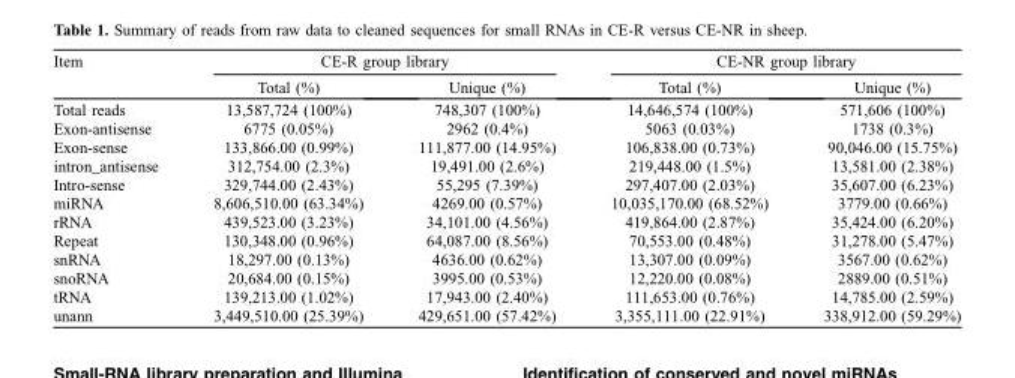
<table><thead><tr><td rowspan="2">Item</td><td colspan="2">CE-R group library</td><td colspan="2">CE-NR group library</td></tr><tr><td>Total (%)</td><td>Unique (%)</td><td>Total (%)</td><td>Unique (%)</td></tr></thead><tbody><tr><td>Total reads</td><td>13,587,724 (100%)</td><td>748,307 (100%)</td><td>14,646,574 (100%)</td><td>571,606 (100%)</td></tr><tr><td>Exon-antisense</td><td>6775 (0.05%)</td><td>2962 (0.4%)</td><td>5063 (0.03%)</td><td>1738 (0.3%)</td></tr><tr><td>Exon-sense</td><td>133,866.00 (0.99%)</td><td>111,877.00 (14.95%)</td><td>106,838.00 (0.73%)</td><td>90,046.00 (15.75%)</td></tr><tr><td>intron_antisense</td><td>312,754.00 (2.3%)</td><td>19,491.00 (2.6%)</td><td>219,448.00 (1.5%)</td><td>13,581.00 (2.38%)</td></tr><tr><td>Intro-sense</td><td>329,744.00 (2.43%)</td><td>55,295 (7.39%)</td><td>297,407.00 (2.03%)</td><td>35,607.00 (6.23%)</td></tr><tr><td>miRNA</td><td>8,606,510.00 (63.34%)</td><td>4269.00 (0.57%)</td><td>10,035,170.00 (68.52%)</td><td>3779.00 (0.66%)</td></tr><tr><td>rRNA</td><td>439,523.00 (3.23%)</td><td>34,101.00 (4.56%)</td><td>419,864.00 (2.87%)</td><td>35,424.00 (6.20%)</td></tr><tr><td>Repeat</td><td>130,348.00 (0.96%)</td><td>64,087.00 (8.56%)</td><td>70,553.00 (0.48%)</td><td>31,278.00 (5.47%)</td></tr><tr><td>snRNA</td><td>18,297.00 (0.13%)</td><td>4636.00 (0.62%)</td><td>13,307.00 (0.09%)</td><td>3567.00 (0.62%)</td></tr><tr><td>snoRNA</td><td>20,684.00 (0.15%)</td><td>3995.00 (0.53%)</td><td>12,220.00 (0.08%)</td><td>2889.00 (0.51%)</td></tr><tr><td>tRNA</td><td>139,213.00 (1.02%)</td><td>17,943.00 (2.40%)</td><td>111,653.00 (0.76%)</td><td>14,785.00 (2.59%)</td></tr><tr><td>unann</td><td>3,449,510.00 (25.39%)</td><td>429,651.00 (57.42%)</td><td>3,355,111.00 (22.91%)</td><td>338,912.00 (59.29%)</td></tr></tbody></table>